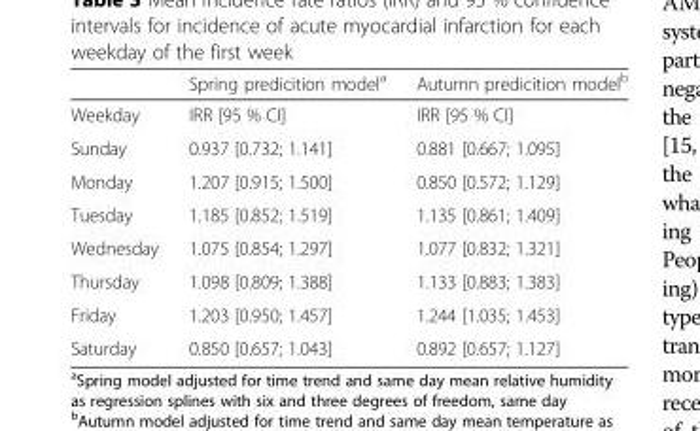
<table><thead><tr><td></td><td>Spring predicition model<sup>a</sup></td><td>Autumn predicition model<sup>b</sup></td></tr></thead><tbody><tr><td>Weekday</td><td>IRR [95 % CI]</td><td>IRR [95 % CI]</td></tr><tr><td>Sunday</td><td>0.937 [0.732; 1.141]</td><td>0.881 [0.667; 1.095]</td></tr><tr><td>Monday</td><td>1.207 [0.915; 1.500]</td><td>0.850 [0.572; 1.129]</td></tr><tr><td>Tuesday</td><td>1.185 [0.852; 1.519]</td><td>1.135 [0.861; 1.409]</td></tr><tr><td>Wednesday</td><td>1.075 [0.854; 1.297]</td><td>1.077 [0.832; 1.321]</td></tr><tr><td>Thursday</td><td>1.098 [0.809; 1.388]</td><td>1.133 [0.883; 1.383]</td></tr><tr><td>Friday</td><td>1.203 [0.950; 1.457]</td><td>1.244 [1.035; 1.453]</td></tr><tr><td>Saturday</td><td>0.850 [0.657; 1.043]</td><td>0.892 [0.657; 1.127]</td></tr></tbody></table>